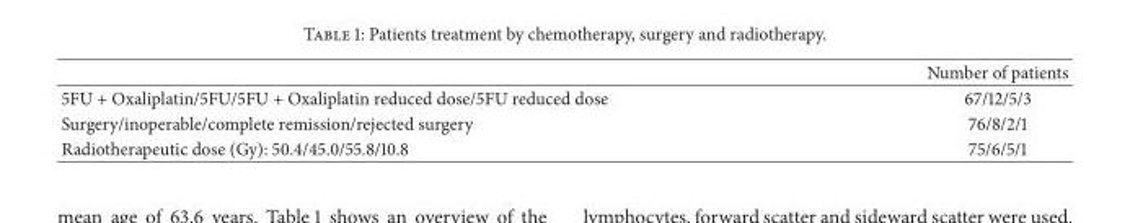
<table><thead><tr><td></td><td>Number of patients</td></tr></thead><tbody><tr><td>5FU + Oxaliplatin/5FU/5FU + Oxaliplatin reduced dose/5FU reduced dose</td><td>67/12/5/3</td></tr><tr><td>Surgery/inoperable/complete remission/rejected surgery</td><td>76/8/2/1</td></tr><tr><td>Radiotherapeutic dose (Gy): 50.4/45.0/55.8/10.8</td><td>75/6/5/1</td></tr></tbody></table>